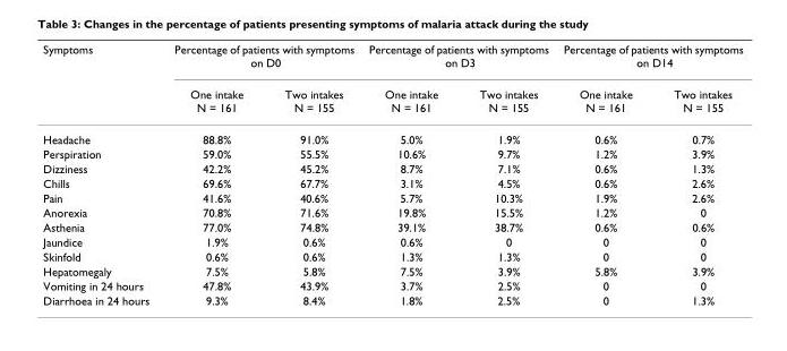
<table><thead><tr><td rowspan="2">Symptoms</td><td colspan="2">Percentage of patients with symptoms on D0</td><td colspan="2">Percentage of patients with symptoms on D3</td><td colspan="2">Percentage of patients with symptoms on D14</td></tr><tr><td>One intake N = 161</td><td>Two intakes N = 155</td><td>One intake N = 161</td><td>Two intakes N = 155</td><td>One intake N = 161</td><td>Two intakes N = 155</td></tr></thead><tbody><tr><td>Headache</td><td>88.8%</td><td>91.0%</td><td>5.0%</td><td>1.9%</td><td>0.6%</td><td>0.7%</td></tr><tr><td>Perspiration</td><td>59.0%</td><td>55.5%</td><td>10.6%</td><td>9.7%</td><td>1.2%</td><td>3.9%</td></tr><tr><td>Dizziness</td><td>42.2%</td><td>45.2%</td><td>8.7%</td><td>7.1%</td><td>0.6%</td><td>1.3%</td></tr><tr><td>Chills</td><td>69.6%</td><td>67.7%</td><td>3.1%</td><td>4.5%</td><td>0.6%</td><td>2.6%</td></tr><tr><td>Pain</td><td>41.6%</td><td>40.6%</td><td>5.7%</td><td>10.3%</td><td>1.9%</td><td>2.6%</td></tr><tr><td>Anorexia</td><td>70.8%</td><td>71.6%</td><td>19.8%</td><td>15.5%</td><td>1.2%</td><td>0</td></tr><tr><td>Asthenia</td><td>77.0%</td><td>74.8%</td><td>39.1%</td><td>38.7%</td><td>0.6%</td><td>0.6%</td></tr><tr><td>Jaundice</td><td>1.9%</td><td>0.6%</td><td>0.6%</td><td>0</td><td>0</td><td>0</td></tr><tr><td>Skinfold</td><td>0.6%</td><td>0.6%</td><td>1.3%</td><td>1.3%</td><td>0</td><td>0</td></tr><tr><td>Hepatomegaly</td><td>7.5%</td><td>5.8%</td><td>7.5%</td><td>3.9%</td><td>5.8%</td><td>3.9%</td></tr><tr><td>Vomiting in 24 hours</td><td>47.8%</td><td>43.9%</td><td>3.7%</td><td>2.5%</td><td>0</td><td>0</td></tr><tr><td>Diarrhoea in 24 hours</td><td>9.3%</td><td>8.4%</td><td>1.8%</td><td>2.5%</td><td>0</td><td>1.3%</td></tr></tbody></table>